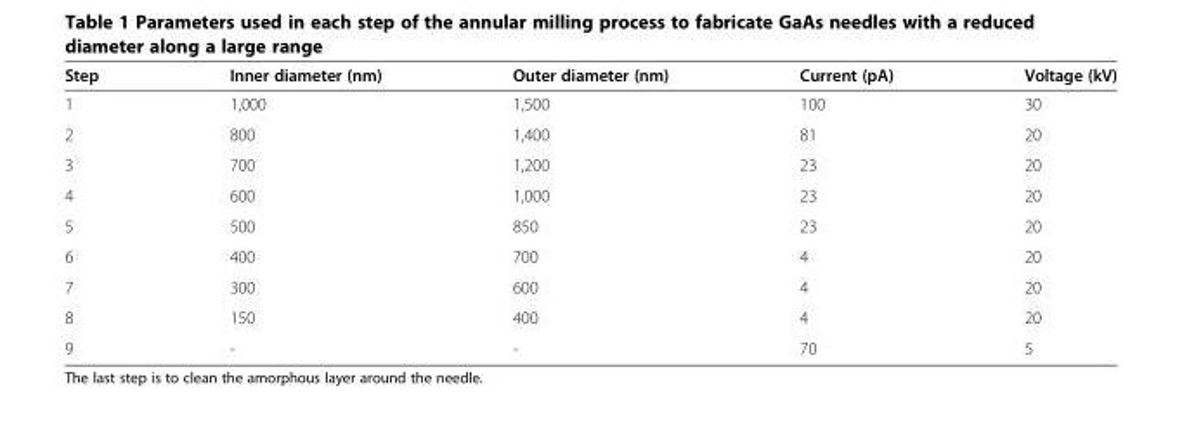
<table><thead><tr><td>Step</td><td>Inner diameter (nm)</td><td>Outer diameter (nm)</td><td>Current (pA)</td><td>Voltage (kV)</td></tr></thead><tbody><tr><td>1</td><td>1,000</td><td>1,500</td><td>100</td><td>30</td></tr><tr><td>2</td><td>800</td><td>1,400</td><td>81</td><td>20</td></tr><tr><td>3</td><td>700</td><td>1,200</td><td>23</td><td>20</td></tr><tr><td>4</td><td>600</td><td>1,000</td><td>23</td><td>20</td></tr><tr><td>5</td><td>500</td><td>850</td><td>23</td><td>20</td></tr><tr><td>6</td><td>400</td><td>700</td><td>4</td><td>20</td></tr><tr><td>7</td><td>300</td><td>600</td><td>4</td><td>20</td></tr><tr><td>8</td><td>150</td><td>400</td><td>4</td><td>20</td></tr><tr><td>9</td><td>-</td><td>-</td><td>70</td><td>5</td></tr></tbody></table>